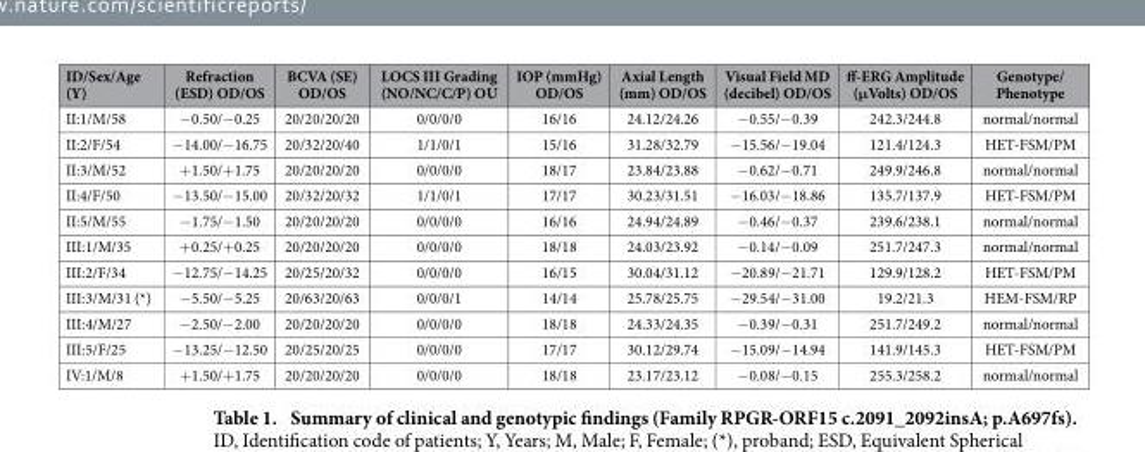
<table><thead><tr><td>ID/Sex/Age (Y)</td><td>Refraction (ESD) OD/OS</td><td>BCVA (SE) OD/OS</td><td>LOCS III Grading (NO/NC/C/P) OU</td><td>IOP (mmHg) OD/OS</td><td>Axial Length (mm) OD/OS</td><td>Visual Field MD (decibel) OD/OS</td><td>ff-ERG Amplitude (μVolts) OD/OS</td><td>Genotype/ Phenotype</td></tr></thead><tbody><tr><td>II:1/M/58</td><td>− 0.50/− 0.25</td><td>20/20/20/20</td><td>0/0/0/0</td><td>16/16</td><td>24.12/24.26</td><td>− 0.55/− 0.39</td><td>242.3/244.8</td><td>normal/normal</td></tr><tr><td>II:2/F/54</td><td>− 14.00/− 16.75</td><td>20/32/20/40</td><td>1/1/0/1</td><td>15/16</td><td>31.28/32.79</td><td>− 15.56/− 19.04</td><td>121.4/124.3</td><td>HET-FSM/PM</td></tr><tr><td>II:3/M/52</td><td>+ 1.50/+ 1.75</td><td>20/20/20/20</td><td>0/0/0/0</td><td>18/17</td><td>23.84/23.88</td><td>− 0.62/− 0.71</td><td>249.9/246.8</td><td>normal/normal</td></tr><tr><td>II:4/F/50</td><td>− 13.50/− 15.00</td><td>20/32/20/32</td><td>1/1/0/1</td><td>17/17</td><td>30.23/31.51</td><td>− 16.03/− 18.86</td><td>135.7/137.9</td><td>HET-FSM/PM</td></tr><tr><td>II:5/M/55</td><td>− 1.75/− 1.50</td><td>20/20/20/20</td><td>0/0/0/0</td><td>16/16</td><td>24.94/24.89</td><td>− 0.46/− 0.37</td><td>239.6/238.1</td><td>normal/normal</td></tr><tr><td>III:1/M/35</td><td>+ 0.25/+ 0.25</td><td>20/20/20/20</td><td>0/0/0/0</td><td>18/18</td><td>24.03/23.92</td><td>− 0.14/− 0.09</td><td>251.7/247.3</td><td>normal/normal</td></tr><tr><td>III:2/F/34</td><td>− 12.75/− 14.25</td><td>20/25/20/32</td><td>0/0/0/0</td><td>16/15</td><td>30.04/31.12</td><td>− 20.89/− 21.71</td><td>129.9/128.2</td><td>HET-FSM/PM</td></tr><tr><td>III:3/M/31 (*)</td><td>− 5.50/− 5.25</td><td>20/63/20/63</td><td>0/0/0/1</td><td>14/14</td><td>25.78/25.75</td><td>− 29.54/− 31.00</td><td>19.2/21.3</td><td>HEM-FSM/RP</td></tr><tr><td>III:4/M/27</td><td>− 2.50/− 2.00</td><td>20/20/20/20</td><td>0/0/0/0</td><td>18/18</td><td>24.33/24.35</td><td>− 0.39/− 0.31</td><td>251.7/249.2</td><td>normal/normal</td></tr><tr><td>III:5/F/25</td><td>− 13.25/− 12.50</td><td>20/25/20/25</td><td>0/0/0/0</td><td>17/17</td><td>30.12/29.74</td><td>− 15.09/− 14.94</td><td>141.9/145.3</td><td>HET-FSM/PM</td></tr><tr><td>IV:1/M/8</td><td>+ 1.50/+ 1.75</td><td>20/20/20/20</td><td>0/0/0/0</td><td>18/18</td><td>23.17/23.12</td><td>− 0.08/− 0.15</td><td>255.3/258.2</td><td>normal/normal</td></tr></tbody></table>